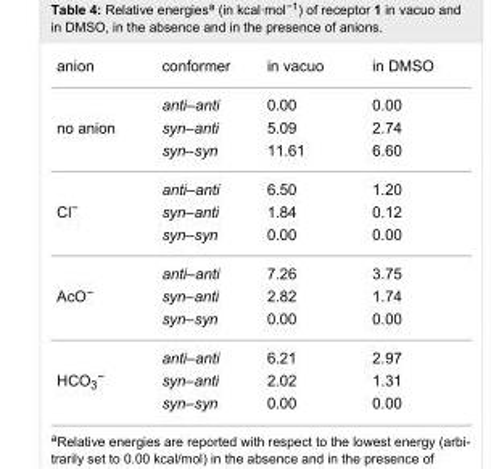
<table><tbody><tr><td>anion</td><td>conformer</td><td>in vacuo</td><td>in DMSO</td></tr><tr><td rowspan="3">no anion</td><td>anti–anti</td><td>0.00</td><td>0.00</td></tr><tr><td>syn–anti</td><td>5.09</td><td>2.74</td></tr><tr><td>syn–syn</td><td>11.61</td><td>6.60</td></tr><tr><td rowspan="3">Cl<sup>−</sup></td><td>anti–anti</td><td>6.50</td><td>1.20</td></tr><tr><td>syn–anti</td><td>1.84</td><td>0.12</td></tr><tr><td>syn–syn</td><td>0.00</td><td>0.00</td></tr><tr><td rowspan="3">AcO<sup>−</sup></td><td>anti–anti</td><td>7.26</td><td>3.75</td></tr><tr><td>syn–anti</td><td>2.82</td><td>1.74</td></tr><tr><td>syn–syn</td><td>0.00</td><td>0.00</td></tr><tr><td rowspan="3">HCO<sub>3</sub><sup>−</sup></td><td>anti–anti</td><td>6.21</td><td>2.97</td></tr><tr><td>syn–anti</td><td>2.02</td><td>1.31</td></tr><tr><td>syn–syn</td><td>0.00</td><td>0.00</td></tr></tbody></table>